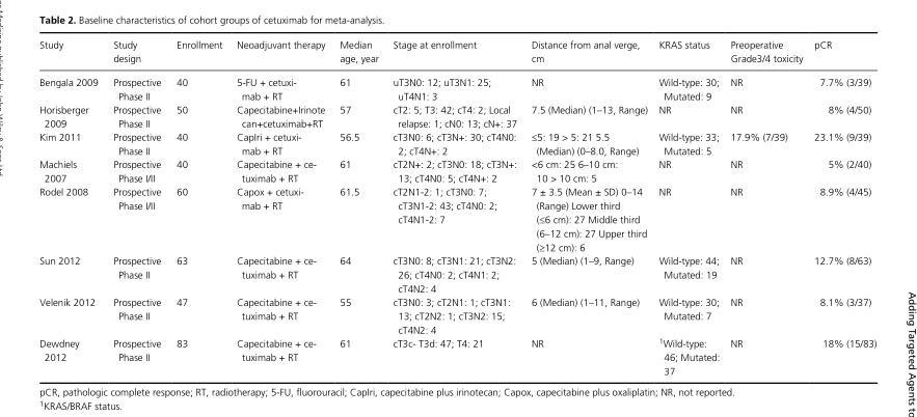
<table><thead><tr><td>Study</td><td>Study design</td><td>Enrollment</td><td>Neoadjuvant therapy</td><td>Median age, year</td><td>Stage at enrollment</td><td>Distance from anal verge, cm</td><td>KRAS status</td><td>Preoperative Grade3/4 toxicity</td><td>pCR</td></tr></thead><tbody><tr><td>Bengala 2009</td><td>Prospective Phase II</td><td>40</td><td>5- FU + cetuxi- mab + RT</td><td>61</td><td>uT3N0: 12; uT3N1: 25; uT4N1: 3</td><td>NR</td><td>Wild- type: 30; Mutated: 9</td><td>NR</td><td>7.7% (3/39)</td></tr><tr><td>Horisberger 2009</td><td>Prospective Phase II</td><td>50</td><td>Capecitabine+Irinote can+cetuximab+RT</td><td>57</td><td>cT2: 5; T3: 42; cT4: 2; Local relapse: 1; cN0: 13; cN+: 37</td><td>7.5 (Median) (1–13, Range)</td><td>NR</td><td>NR</td><td>8% (4/50)</td></tr><tr><td>Kim 2011</td><td>Prospective Phase II</td><td>40</td><td>CapIri + cetuxi- mab + RT</td><td>56.5</td><td>cT3N0: 6; cT3N+: 30; cT4N0: 2; cT4N+: 2</td><td>≤5: 19 &gt; 5: 21 5.5 (Median) (0–8.0, Range)</td><td>Wild- type: 33; Mutated: 5</td><td>17.9% (7/39)</td><td>23.1% (9/39)</td></tr><tr><td>Machiels 2007</td><td>Prospective Phase I/II</td><td>40</td><td>Capecitabine + ce- tuximab + RT</td><td>61</td><td>cT2N+: 2; cT3N0: 18; cT3N+: 13; cT4N0: 5; cT4N+: 2</td><td>&lt;6 cm: 25 6–10 cm: 10 &gt; 10 cm: 5</td><td>NR</td><td>NR</td><td>5% (2/40)</td></tr><tr><td>Rodel 2008</td><td>Prospective Phase I/II</td><td>60</td><td>Capox + cetuxi- mab + RT</td><td>61.5</td><td>cT2N1- 2: 1; cT3N0: 7; cT3N1- 2: 43; cT4N0: 2; cT4N1- 2: 7</td><td>7 ± 3.5 (Mean ± SD) 0–14 (Range) Lower third (≤6 cm): 27 Middle third (6–12 cm): 27 Upper third (≥12 cm): 6</td><td>NR</td><td>NR</td><td>8.9% (4/45)</td></tr><tr><td>Sun 2012</td><td>Prospective Phase II</td><td>63</td><td>Capecitabine + ce- tuximab + RT</td><td>64</td><td>cT3N0: 8; cT3N1: 21; cT3N2: 26; cT4N0: 2; cT4N1: 2; cT4N2: 4</td><td>5 (Median) (1–9, Range)</td><td>Wild- type: 44; Mutated: 19</td><td>NR</td><td>12.7% (8/63)</td></tr><tr><td>Velenik 2012</td><td>Prospective Phase II</td><td>47</td><td>Capecitabine + ce- tuximab + RT</td><td>55</td><td>cT3N0: 3; cT2N1: 1; cT3N1: 13; cT2N2: 1; cT3N2: 15; cT4N2: 4</td><td>6 (Median) (1–11, Range)</td><td>Wild- type: 30; Mutated: 7</td><td>NR</td><td>8.1% (3/37)</td></tr><tr><td>Dewdney 2012</td><td>Prospective Phase II</td><td>83</td><td>Capecitabine + ce- tuximab + RT</td><td>61</td><td>cT3c- T3d: 47; T4: 21</td><td>NR</td><td>1Wild- type: 46; Mutated: 37</td><td>NR</td><td>18% (15/83)</td></tr></tbody></table>